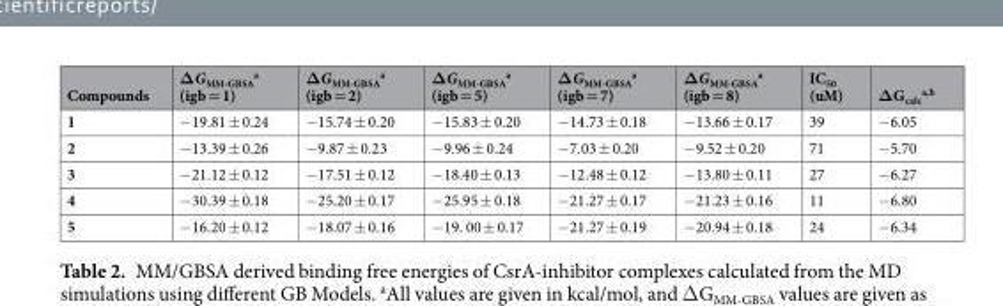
<table><thead><tr><td>Compounds</td><td>ΔG<sub>MM-GBSA</sub> <sup>a</sup> (igb = 1)</td><td>ΔG<sub>MM-GBSA</sub> <sup>a</sup> (igb = 2)</td><td>ΔG<sub>MM-GBSA</sub> <sup>a</sup> (igb = 5)</td><td>ΔG<sub>MM-GBSA</sub> <sup>a</sup> (igb = 7)</td><td>ΔG<sub>MM-GBSA</sub> <sup>a</sup> (igb = 8)</td><td>IC<sub>50</sub> (uM)</td><td>ΔG<sub>calc</sub> <sup>a,b</sup></td></tr></thead><tbody><tr><td>1</td><td>−19.81 ± 0.24</td><td>−15.74 ± 0.20</td><td>−15.83 ± 0.20</td><td>−14.73 ± 0.18</td><td>−13.66 ± 0.17</td><td>39</td><td>−6.05</td></tr><tr><td>2</td><td>−13.39 ± 0.26</td><td>−9.87 ± 0.23</td><td>−9.96 ± 0.24</td><td>−7.03 ± 0.20</td><td>−9.52 ± 0.20</td><td>71</td><td>−5.70</td></tr><tr><td>3</td><td>−21.12 ± 0.12</td><td>−17.51 ± 0.12</td><td>−18.40 ± 0.13</td><td>−12.48 ± 0.12</td><td>−13.80 ± 0.11</td><td>27</td><td>−6.27</td></tr><tr><td>4</td><td>−30.39 ± 0.18</td><td>−25.20 ± 0.17</td><td>−25.95 ± 0.18</td><td>−21.27 ± 0.17</td><td>−21.23 ± 0.16</td><td>11</td><td>−6.80</td></tr><tr><td>5</td><td>−16.20 ± 0.12</td><td>−18.07 ± 0.16</td><td>−19. 00 ± 0.17</td><td>−21.27 ± 0.19</td><td>−20.94 ± 0.18</td><td>24</td><td>−6.34</td></tr></tbody></table>